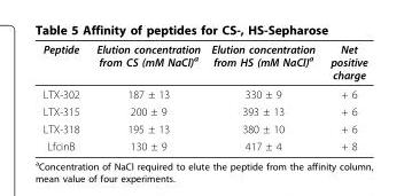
<table><thead><tr><td>Peptide</td><td>Elution concentration from CS (mM NaCl)<sup>a</sup></td><td>Elution concentration from HS (mM NaCl)<sup>a</sup></td><td>Net positive charge</td></tr></thead><tbody><tr><td>LTX-302</td><td>187 ± 13</td><td>330 ± 9</td><td>+ 6</td></tr><tr><td>LTX-315</td><td>200 ± 9</td><td>393 ± 13</td><td>+ 6</td></tr><tr><td>LTX-318</td><td>195 ± 13</td><td>380 ± 10</td><td>+ 6</td></tr><tr><td>LfcinB</td><td>130 ± 9</td><td>417 ± 4</td><td>+ 8</td></tr></tbody></table>